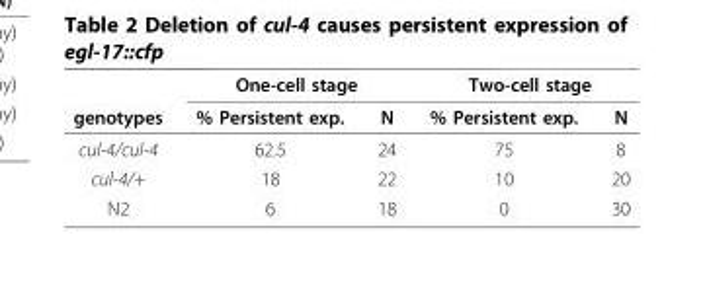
<table><thead><tr><td rowspan="2">genotypes</td><td colspan="2">One-cell stage</td><td colspan="2">Two-cell stage</td></tr><tr><td>% Persistent exp.</td><td>N</td><td>% Persistent exp.</td><td>N</td></tr></thead><tbody><tr><td>cul-4/cul-4</td><td>62.5</td><td>24</td><td>75</td><td>8</td></tr><tr><td>cul-4/+</td><td>18</td><td>22</td><td>10</td><td>20</td></tr><tr><td>N2</td><td>6</td><td>18</td><td>0</td><td>30</td></tr></tbody></table>